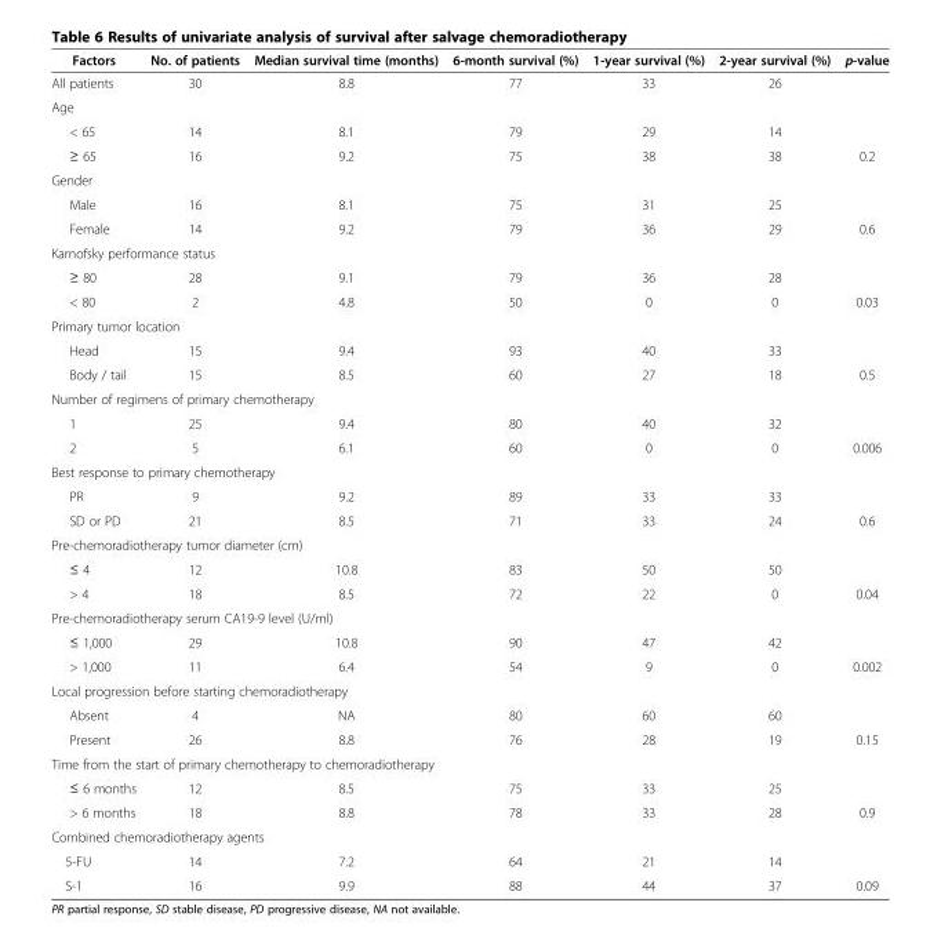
<table><thead><tr><td>Factors</td><td>No. of patients</td><td>Median survival time (months)</td><td>6-month survival (%)</td><td>1-year survival (%)</td><td>2-year survival (%)</td><td>p-value</td></tr></thead><tbody><tr><td>All patients</td><td>30</td><td>8.8</td><td>77</td><td>33</td><td>26</td><td></td></tr><tr><td colspan="7">Age</td></tr><tr><td>&lt; 65</td><td>14</td><td>8.1</td><td>79</td><td>29</td><td>14</td><td></td></tr><tr><td>≥ 65</td><td>16</td><td>9.2</td><td>75</td><td>38</td><td>38</td><td>0.2</td></tr><tr><td colspan="7">Gender</td></tr><tr><td>Male</td><td>16</td><td>8.1</td><td>75</td><td>31</td><td>25</td><td></td></tr><tr><td>Female</td><td>14</td><td>9.2</td><td>79</td><td>36</td><td>29</td><td>0.6</td></tr><tr><td colspan="7">Karnofsky performance status</td></tr><tr><td>≥ 80</td><td>28</td><td>9.1</td><td>79</td><td>36</td><td>28</td><td></td></tr><tr><td>&lt; 80</td><td>2</td><td>4.8</td><td>50</td><td>0</td><td>0</td><td>0.03</td></tr><tr><td colspan="7">Primary tumor location</td></tr><tr><td>Head</td><td>15</td><td>9.4</td><td>93</td><td>40</td><td>33</td><td></td></tr><tr><td>Body / tail</td><td>15</td><td>8.5</td><td>60</td><td>27</td><td>18</td><td>0.5</td></tr><tr><td colspan="7">Number of regimens of primary chemotherapy</td></tr><tr><td>1</td><td>25</td><td>9.4</td><td>80</td><td>40</td><td>32</td><td></td></tr><tr><td>2</td><td>5</td><td>6.1</td><td>60</td><td>0</td><td>0</td><td>0.006</td></tr><tr><td colspan="7">Best response to primary chemotherapy</td></tr><tr><td>PR</td><td>9</td><td>9.2</td><td>89</td><td>33</td><td>33</td><td></td></tr><tr><td>SD or PD</td><td>21</td><td>8.5</td><td>71</td><td>33</td><td>24</td><td>0.6</td></tr><tr><td colspan="7">Pre-chemoradiotherapy tumor diameter (cm)</td></tr><tr><td>≤ 4</td><td>12</td><td>10.8</td><td>83</td><td>50</td><td>50</td><td></td></tr><tr><td>&gt; 4</td><td>18</td><td>8.5</td><td>72</td><td>22</td><td>0</td><td>0.04</td></tr><tr><td colspan="7">Pre-chemoradiotherapy serum CA19-9 level (U/ml)</td></tr><tr><td>≤ 1,000</td><td>29</td><td>10.8</td><td>90</td><td>47</td><td>42</td><td></td></tr><tr><td>&gt; 1,000</td><td>11</td><td>6.4</td><td>54</td><td>9</td><td>0</td><td>0.002</td></tr><tr><td colspan="7">Local progression before starting chemoradiotherapy</td></tr><tr><td>Absent</td><td>4</td><td>NA</td><td>80</td><td>60</td><td>60</td><td></td></tr><tr><td>Present</td><td>26</td><td>8.8</td><td>76</td><td>28</td><td>19</td><td>0.15</td></tr><tr><td colspan="7">Time from the start of primary chemotherapy to chemoradiotherapy</td></tr><tr><td>≤ 6 months</td><td>12</td><td>8.5</td><td>75</td><td>33</td><td>25</td><td></td></tr><tr><td>&gt; 6 months</td><td>18</td><td>8.8</td><td>78</td><td>33</td><td>28</td><td>0.9</td></tr><tr><td colspan="7">Combined chemoradiotherapy agents</td></tr><tr><td>5-FU</td><td>14</td><td>7.2</td><td>64</td><td>21</td><td>14</td><td></td></tr><tr><td>S-1</td><td>16</td><td>9.9</td><td>88</td><td>44</td><td>37</td><td>0.09</td></tr></tbody></table>